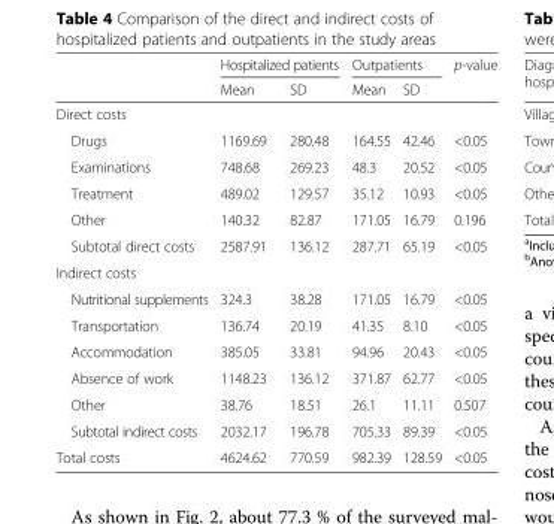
<table><thead><tr><td rowspan="2"></td><td colspan="2">Hospitalized patients</td><td colspan="2">Outpatients</td><td rowspan="2">p-value</td></tr><tr><td>Mean</td><td>SD</td><td>Mean</td><td>SD</td></tr></thead><tbody><tr><td colspan="6">Direct costs</td></tr><tr><td>Drugs</td><td>1169.69</td><td>280.48</td><td>164.55</td><td>42.46</td><td>&lt;0.05</td></tr><tr><td>Examinations</td><td>748.68</td><td>269.23</td><td>48.3</td><td>20.52</td><td>&lt;0.05</td></tr><tr><td>Treatment</td><td>489.02</td><td>129.57</td><td>35.12</td><td>10.93</td><td>&lt;0.05</td></tr><tr><td>Other</td><td>140.32</td><td>82.87</td><td>171.05</td><td>16.79</td><td>0.196</td></tr><tr><td>Subtotal direct costs</td><td>2587.91</td><td>136.12</td><td>287.71</td><td>65.19</td><td>&lt;0.05</td></tr><tr><td colspan="6">Indirect costs</td></tr><tr><td>Nutritional supplements</td><td>324.3</td><td>38.28</td><td>171.05</td><td>16.79</td><td>&lt;0.05</td></tr><tr><td>Transportation</td><td>136.74</td><td>20.19</td><td>41.35</td><td>8.10</td><td>&lt;0.05</td></tr><tr><td>Accommodation</td><td>385.05</td><td>33.81</td><td>94.96</td><td>20.43</td><td>&lt;0.05</td></tr><tr><td>Absence of work</td><td>1148.23</td><td>136.12</td><td>371.87</td><td>62.77</td><td>&lt;0.05</td></tr><tr><td>Other</td><td>38.76</td><td>18.51</td><td>26.1</td><td>11.11</td><td>0.507</td></tr><tr><td>Subtotal indirect costs</td><td>2032.17</td><td>196.78</td><td>705.33</td><td>89.39</td><td>&lt;0.05</td></tr><tr><td>Total costs</td><td>4624.62</td><td>770.59</td><td>982.39</td><td>128.59</td><td>&lt;0.05</td></tr></tbody></table>